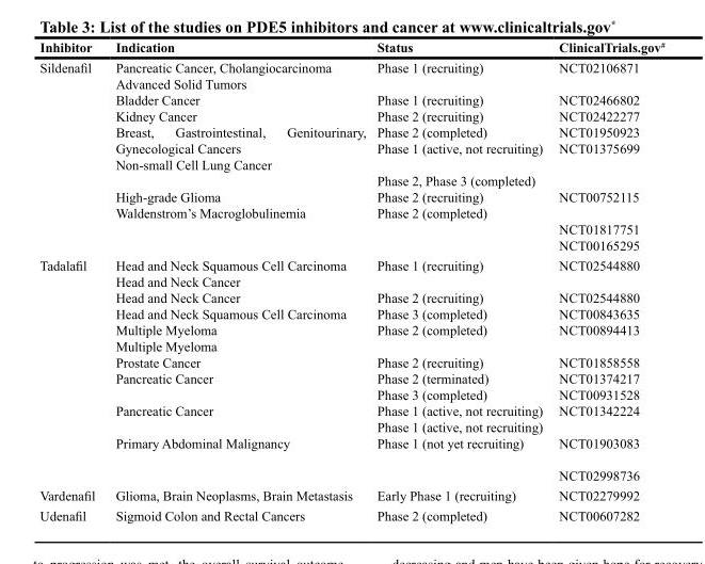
<table><thead><tr><td>Inhibitor</td><td>Indication</td><td>Status</td><td>ClinicalTrials.gov<sup>#</sup></td></tr></thead><tbody><tr><td>Sildenafil</td><td>Pancreatic Cancer, Cholangiocarcinoma Advanced Solid Tumors Bladder Cancer Kidney Cancer Breast, Gastrointestinal, Genitourinary, Gynecological Cancers Non-small Cell Lung Cancer High-grade Glioma Waldenstrom’s Macroglobulinemia</td><td>Phase 1 (recruiting) Phase 1 (recruiting) Phase 2 (recruiting) Phase 2 (completed) Phase 1 (active, not recruiting) Phase 2, Phase 3 (completed) Phase 2 (recruiting) Phase 2 (completed)</td><td>NCT02106871 NCT02466802 NCT02422277 NCT01950923 NCT01375699 NCT00752115 NCT01817751 NCT00165295</td></tr><tr><td>Tadalafil</td><td>Head and Neck Squamous Cell Carcinoma Head and Neck Cancer Head and Neck Cancer Head and Neck Squamous Cell Carcinoma Multiple Myeloma Multiple Myeloma Prostate Cancer Pancreatic Cancer Pancreatic Cancer Primary Abdominal Malignancy</td><td>Phase 1 (recruiting) Phase 2 (recruiting) Phase 3 (completed) Phase 2 (completed) Phase 2 (recruiting) Phase 2 (terminated) Phase 3 (completed) Phase 1 (active, not recruiting) Phase 1 (active, not recruiting) Phase 1 (not yet recruiting)</td><td>NCT02544880 NCT02544880 NCT00843635 NCT00894413 NCT01858558 NCT01374217 NCT00931528 NCT01342224 NCT01903083 NCT02998736</td></tr><tr><td>Vardenafil</td><td>Glioma, Brain Neoplasms, Brain Metastasis</td><td>Early Phase 1 (recruiting)</td><td>NCT02279992</td></tr><tr><td>Udenafil</td><td>Sigmoid Colon and Rectal Cancers</td><td>Phase 2 (completed)</td><td>NCT00607282</td></tr></tbody></table>